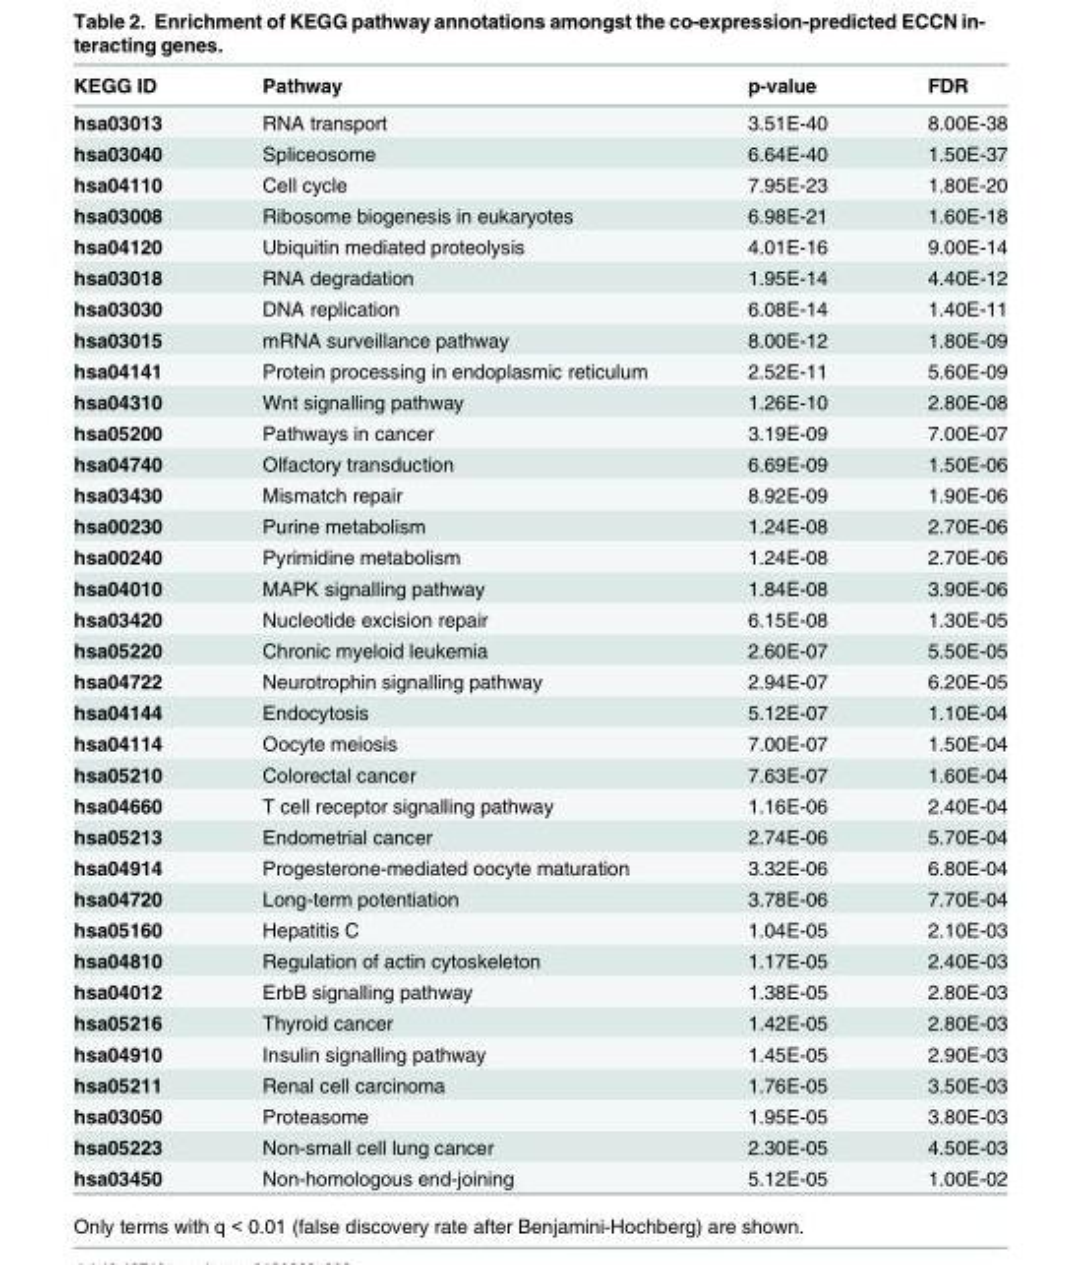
<table><thead><tr><td>KEGG ID</td><td>Pathway</td><td>p-value</td><td>FDR</td></tr></thead><tbody><tr><td>hsa03013</td><td>RNA transport</td><td>3.51E-40</td><td>8.00E-38</td></tr><tr><td>hsa03040</td><td>Spliceosome</td><td>6.64E-40</td><td>1.50E-37</td></tr><tr><td>hsa04110</td><td>Cell cycle</td><td>7.95E-23</td><td>1.80E-20</td></tr><tr><td>hsa03008</td><td>Ribosome biogenesis in eukaryotes</td><td>6.98E-21</td><td>1.60E-18</td></tr><tr><td>hsa04120</td><td>Ubiquitin mediated proteolysis</td><td>4.01E-16</td><td>9.00E-14</td></tr><tr><td>hsa03018</td><td>RNA degradation</td><td>1.95E-14</td><td>4.40E-12</td></tr><tr><td>hsa03030</td><td>DNA replication</td><td>6.08E-14</td><td>1.40E-11</td></tr><tr><td>hsa03015</td><td>mRNA surveillance pathway</td><td>8.00E-12</td><td>1.80E-09</td></tr><tr><td>hsa04141</td><td>Protein processing in endoplasmic reticulum</td><td>2.52E-11</td><td>5.60E-09</td></tr><tr><td>hsa04310</td><td>Wnt signalling pathway</td><td>1.26E-10</td><td>2.80E-08</td></tr><tr><td>hsa05200</td><td>Pathways in cancer</td><td>3.19E-09</td><td>7.00E-07</td></tr><tr><td>hsa04740</td><td>Olfactory transduction</td><td>6.69E-09</td><td>1.50E-06</td></tr><tr><td>hsa03430</td><td>Mismatch repair</td><td>8.92E-09</td><td>1.90E-06</td></tr><tr><td>hsa00230</td><td>Purine metabolism</td><td>1.24E-08</td><td>2.70E-06</td></tr><tr><td>hsa00240</td><td>Pyrimidine metabolism</td><td>1.24E-08</td><td>2.70E-06</td></tr><tr><td>hsa04010</td><td>MAPK signalling pathway</td><td>1.84E-08</td><td>3.90E-06</td></tr><tr><td>hsa03420</td><td>Nucleotide excision repair</td><td>6.15E-08</td><td>1.30E-05</td></tr><tr><td>hsa05220</td><td>Chronic myeloid leukemia</td><td>2.60E-07</td><td>5.50E-05</td></tr><tr><td>hsa04722</td><td>Neurotrophin signalling pathway</td><td>2.94E-07</td><td>6.20E-05</td></tr><tr><td>hsa04144</td><td>Endocytosis</td><td>5.12E-07</td><td>1.10E-04</td></tr><tr><td>hsa04114</td><td>Oocyte meiosis</td><td>7.00E-07</td><td>1.50E-04</td></tr><tr><td>hsa05210</td><td>Colorectal cancer</td><td>7.63E-07</td><td>1.60E-04</td></tr><tr><td>hsa04660</td><td>T cell receptor signalling pathway</td><td>1.16E-06</td><td>2.40E-04</td></tr><tr><td>hsa05213</td><td>Endometrial cancer</td><td>2.74E-06</td><td>5.70E-04</td></tr><tr><td>hsa04914</td><td>Progesterone-mediated oocyte maturation</td><td>3.32E-06</td><td>6.80E-04</td></tr><tr><td>hsa04720</td><td>Long-term potentiation</td><td>3.78E-06</td><td>7.70E-04</td></tr><tr><td>hsa05160</td><td>Hepatitis C</td><td>1.04E-05</td><td>2.10E-03</td></tr><tr><td>hsa04810</td><td>Regulation of actin cytoskeleton</td><td>1.17E-05</td><td>2.40E-03</td></tr><tr><td>hsa04012</td><td>ErbB signalling pathway</td><td>1.38E-05</td><td>2.80E-03</td></tr><tr><td>hsa05216</td><td>Thyroid cancer</td><td>1.42E-05</td><td>2.80E-03</td></tr><tr><td>hsa04910</td><td>Insulin signalling pathway</td><td>1.45E-05</td><td>2.90E-03</td></tr><tr><td>hsa05211</td><td>Renal cell carcinoma</td><td>1.76E-05</td><td>3.50E-03</td></tr><tr><td>hsa03050</td><td>Proteasome</td><td>1.95E-05</td><td>3.80E-03</td></tr><tr><td>hsa05223</td><td>Non-small cell lung cancer</td><td>2.30E-05</td><td>4.50E-03</td></tr><tr><td>hsa03450</td><td>Non-homologous end-joining</td><td>5.12E-05</td><td>1.00E-02</td></tr></tbody></table>